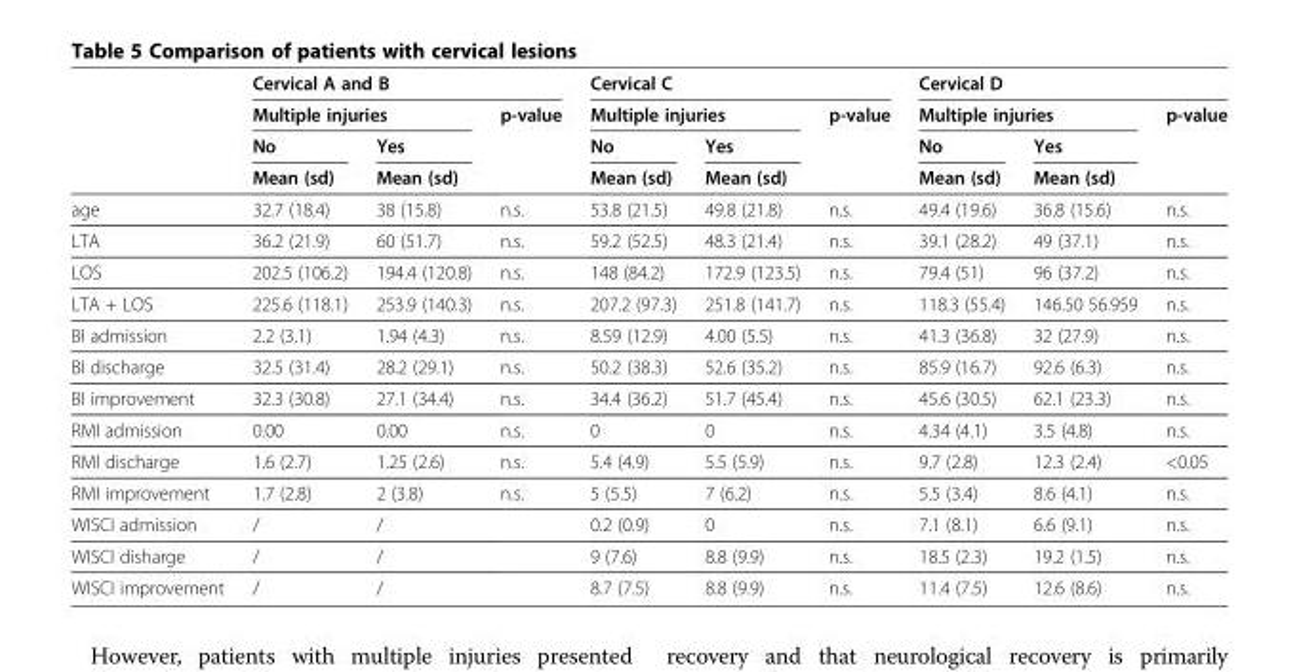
<table><thead><tr><td rowspan="4"></td><td colspan="3">Cervical A and B</td><td colspan="3">Cervical C</td><td colspan="3">Cervical D</td></tr><tr><td colspan="2">Multiple injuries</td><td rowspan="3">p-value</td><td colspan="2">Multiple injuries</td><td rowspan="3">p-value</td><td colspan="2">Multiple injuries</td><td rowspan="3">p-value</td></tr><tr><td rowspan="2">No Mean (sd)</td><td rowspan="2">Yes Mean (sd)</td><td rowspan="2">No Mean (sd)</td><td rowspan="2">Yes Mean (sd)</td><td rowspan="2">No Mean (sd)</td><td rowspan="2">Yes Mean (sd)</td></tr><tr></tr></thead><tbody><tr><td>age</td><td>32.7 (18.4)</td><td>38 (15.8)</td><td>n.s.</td><td>53.8 (21.5)</td><td>49.8 (21.8)</td><td>n.s.</td><td>49.4 (19.6)</td><td>36.8 (15.6)</td><td>n.s.</td></tr><tr><td>LTA</td><td>36.2 (21.9)</td><td>60 (51.7)</td><td>n.s.</td><td>59.2 (52.5)</td><td>48.3 (21.4)</td><td>n.s.</td><td>39.1 (28.2)</td><td>49 (37.1)</td><td>n.s.</td></tr><tr><td>LOS</td><td>202.5 (106.2)</td><td>194.4 (120.8)</td><td>n.s.</td><td>148 (84.2)</td><td>172.9 (123.5)</td><td>n.s.</td><td>79.4 (51)</td><td>96 (37.2)</td><td>n.s.</td></tr><tr><td>LTA + LOS</td><td>225.6 (118.1)</td><td>253.9 (140.3)</td><td>n.s.</td><td>207.2 (97.3)</td><td>251.8 (141.7)</td><td>n.s.</td><td>118.3 (55.4)</td><td>146.50 56.959</td><td>n.s.</td></tr><tr><td>BI admission</td><td>2.2 (3.1)</td><td>1.94 (4.3)</td><td>n.s.</td><td>8.59 (12.9)</td><td>4.00 (5.5)</td><td>n.s.</td><td>41.3 (36.8)</td><td>32 (27.9)</td><td>n.s.</td></tr><tr><td>BI discharge</td><td>32.5 (31.4)</td><td>28.2 (29.1)</td><td>n.s.</td><td>50.2 (38.3)</td><td>52.6 (35.2)</td><td>n.s.</td><td>85.9 (16.7)</td><td>92.6 (6.3)</td><td>n.s.</td></tr><tr><td>BI improvement</td><td>32.3 (30.8)</td><td>27.1 (34.4)</td><td>n.s.</td><td>34.4 (36.2)</td><td>51.7 (45.4)</td><td>n.s.</td><td>45.6 (30.5)</td><td>62.1 (23.3)</td><td>n.s.</td></tr><tr><td>RMI admission</td><td>0.00</td><td>0.00</td><td>n.s.</td><td>0</td><td>0</td><td>n.s.</td><td>4.34 (4.1)</td><td>3.5 (4.8)</td><td>n.s.</td></tr><tr><td>RMI discharge</td><td>1.6 (2.7)</td><td>1.25 (2.6)</td><td>n.s.</td><td>5.4 (4.9)</td><td>5.5 (5.9)</td><td>n.s.</td><td>9.7 (2.8)</td><td>12.3 (2.4)</td><td>&lt;0.05</td></tr><tr><td>RMI improvement</td><td>1.7 (2.8)</td><td>2 (3.8)</td><td>n.s.</td><td>5 (5.5)</td><td>7 (6.2)</td><td>n.s.</td><td>5.5 (3.4)</td><td>8.6 (4.1)</td><td>n.s.</td></tr><tr><td>WISCI admission</td><td>/</td><td>/</td><td></td><td>0.2 (0.9)</td><td>0</td><td>n.s.</td><td>7.1 (8.1)</td><td>6.6 (9.1)</td><td>n.s.</td></tr><tr><td>WISCI disharge</td><td>/</td><td>/</td><td></td><td>9 (7.6)</td><td>8.8 (9.9)</td><td>n.s.</td><td>18.5 (2.3)</td><td>19.2 (1.5)</td><td>n.s.</td></tr><tr><td>WISCI improvement</td><td>/</td><td>/</td><td></td><td>8.7 (7.5)</td><td>8.8 (9.9)</td><td>n.s.</td><td>11.4 (7.5)</td><td>12.6 (8.6)</td><td>n.s.</td></tr></tbody></table>